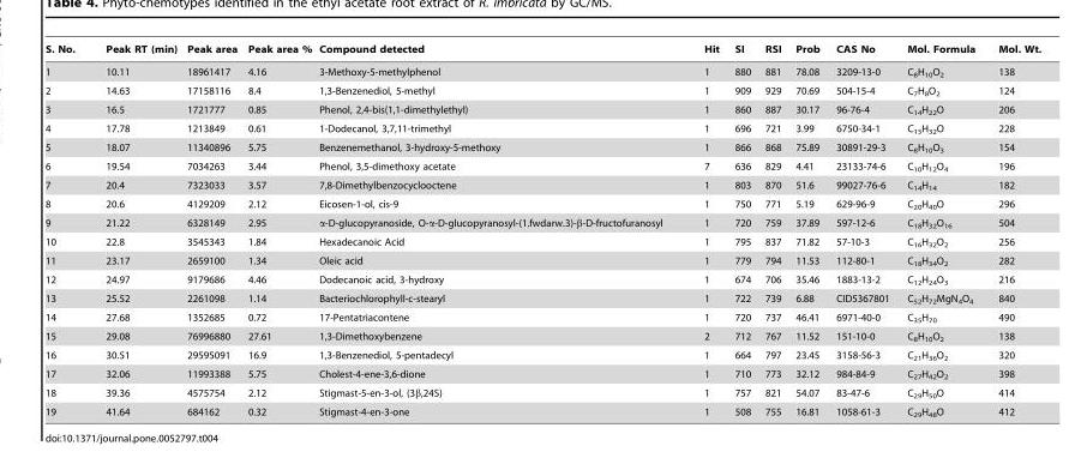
<table><thead><tr><td>S. No.</td><td>Peak RT (min)</td><td>Peak area</td><td>Peak area %</td><td>Compound detected</td><td>Hit</td><td>SI</td><td>RSI</td><td>Prob</td><td>CAS No</td><td>Mol. Formula</td><td>Mol. Wt.</td></tr></thead><tbody><tr><td>1</td><td>10.11</td><td>18961417</td><td>4.16</td><td>3-Methoxy-5-methylphenol</td><td>1</td><td>880</td><td>881</td><td>78.08</td><td>3209-13-0</td><td>C<sub>8</sub>H<sub>10</sub>O<sub>2</sub></td><td>138</td></tr><tr><td>2</td><td>14.63</td><td>17158116</td><td>8.4</td><td>1,3-Benzenediol, 5-methyl</td><td>1</td><td>909</td><td>929</td><td>70.69</td><td>504-15-4</td><td>C<sub>7</sub>H<sub>8</sub>O<sub>2</sub></td><td>124</td></tr><tr><td>3</td><td>16.5</td><td>1721777</td><td>0.85</td><td>Phenol, 2,4-bis(1,1-dimethylethyl)</td><td>1</td><td>860</td><td>887</td><td>30.17</td><td>96-76-4</td><td>C<sub>14</sub>H<sub>22</sub>O</td><td>206</td></tr><tr><td>4</td><td>17.78</td><td>1213849</td><td>0.61</td><td>1-Dodecanol, 3,7,11-trimethyl</td><td>1</td><td>696</td><td>721</td><td>3.99</td><td>6750-34-1</td><td>C<sub>15</sub>H<sub>32</sub>O</td><td>228</td></tr><tr><td>5</td><td>18.07</td><td>11340896</td><td>5.75</td><td>Benzenemethanol, 3-hydroxy-5-methoxy</td><td>1</td><td>866</td><td>868</td><td>75.89</td><td>30891-29-3</td><td>C<sub>8</sub>H<sub>10</sub>O<sub>3</sub></td><td>154</td></tr><tr><td>6</td><td>19.54</td><td>7034263</td><td>3.44</td><td>Phenol, 3,5-dimethoxy acetate</td><td>7</td><td>636</td><td>829</td><td>4.41</td><td>23133-74-6</td><td>C<sub>10</sub>H<sub>12</sub>O<sub>4</sub></td><td>196</td></tr><tr><td>7</td><td>20.4</td><td>7323033</td><td>3.57</td><td>7,8-Dimethylbenzocyclooctene</td><td>1</td><td>803</td><td>870</td><td>51.6</td><td>99027-76-6</td><td>C<sub>14</sub>H<sub>14</sub></td><td>182</td></tr><tr><td>8</td><td>20.6</td><td>4129209</td><td>2.12</td><td>Eicosen-1-ol, cis-9</td><td>1</td><td>750</td><td>771</td><td>5.19</td><td>629-96-9</td><td>C<sub>20</sub>H<sub>40</sub>O</td><td>296</td></tr><tr><td>9</td><td>21.22</td><td>6328149</td><td>2.95</td><td>α-D-glucopyranoside, O-α-D-glucopyranosyl-(1.fwdarw.3)-β-D-fructofuranosyl</td><td>1</td><td>720</td><td>759</td><td>37.89</td><td>597-12-6</td><td>C<sub>18</sub>H<sub>32</sub>O<sub>16</sub></td><td>504</td></tr><tr><td>10</td><td>22.8</td><td>3545343</td><td>1.84</td><td>Hexadecanoic Acid</td><td>1</td><td>795</td><td>837</td><td>71.82</td><td>57-10-3</td><td>C<sub>16</sub>H<sub>32</sub>O<sub>2</sub></td><td>256</td></tr><tr><td>11</td><td>23.17</td><td>2659100</td><td>1.34</td><td>Oleic acid</td><td>1</td><td>779</td><td>794</td><td>11.53</td><td>112-80-1</td><td>C<sub>18</sub>H<sub>34</sub>O<sub>2</sub></td><td>282</td></tr><tr><td>12</td><td>24.97</td><td>9179686</td><td>4.46</td><td>Dodecanoic acid, 3-hydroxy</td><td>1</td><td>674</td><td>706</td><td>35.46</td><td>1883-13-2</td><td>C<sub>12</sub>H<sub>24</sub>O<sub>3</sub></td><td>216</td></tr><tr><td>13</td><td>25.52</td><td>2261098</td><td>1.14</td><td>Bacteriochlorophyll-c-stearyl</td><td>1</td><td>722</td><td>739</td><td>6.88</td><td>CID5367801</td><td>C<sub>52</sub>H<sub>72</sub>MgN<sub>4</sub>O<sub>4</sub></td><td>840</td></tr><tr><td>14</td><td>27.68</td><td>1352685</td><td>0.72</td><td>17-Pentatriacontene</td><td>1</td><td>720</td><td>737</td><td>46.41</td><td>6971-40-0</td><td>C<sub>35</sub>H<sub>70</sub></td><td>490</td></tr><tr><td>15</td><td>29.08</td><td>76996880</td><td>27.61</td><td>1,3-Dimethoxybenzene</td><td>2</td><td>712</td><td>767</td><td>11.52</td><td>151-10-0</td><td>C<sub>8</sub>H<sub>10</sub>O<sub>2</sub></td><td>138</td></tr><tr><td>16</td><td>30.51</td><td>29595091</td><td>16.9</td><td>1,3-Benzenediol, 5-pentadecyl</td><td>1</td><td>664</td><td>797</td><td>23.45</td><td>3158-56-3</td><td>C<sub>21</sub>H<sub>36</sub>O<sub>2</sub></td><td>320</td></tr><tr><td>17</td><td>32.06</td><td>11993388</td><td>5.75</td><td>Cholest-4-ene-3,6-dione</td><td>1</td><td>710</td><td>773</td><td>32.12</td><td>984-84-9</td><td>C<sub>27</sub>H<sub>42</sub>O<sub>2</sub></td><td>398</td></tr><tr><td>18</td><td>39.36</td><td>4575754</td><td>2.12</td><td>Stigmast-5-en-3-ol, (3β,24S)</td><td>1</td><td>757</td><td>821</td><td>54.07</td><td>83-47-6</td><td>C<sub>29</sub>H<sub>50</sub>O</td><td>414</td></tr><tr><td>19</td><td>41.64</td><td>684162</td><td>0.32</td><td>Stigmast-4-en-3-one</td><td>1</td><td>508</td><td>755</td><td>16.81</td><td>1058-61-3</td><td>C<sub>29</sub>H<sub>48</sub>O</td><td>412</td></tr></tbody></table>